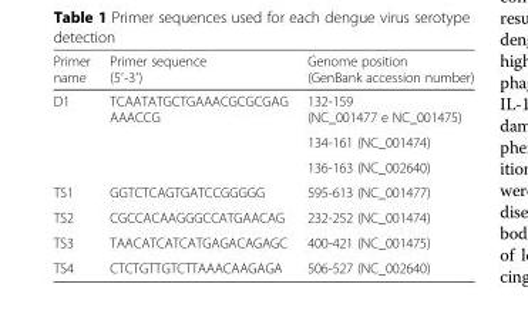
<table><thead><tr><td>Primer name</td><td>Primer sequence (5′-3′)</td><td>Genome position (GenBank accession number)</td></tr></thead><tbody><tr><td rowspan="3">D1</td><td rowspan="3">TCAATATGCTGAAACGCGCGAG AAACCG</td><td>132-159 (NC_001477 e NC_001475)</td></tr><tr><td>134-161 (NC_001474)</td></tr><tr><td>136-163 (NC_002640)</td></tr><tr><td>TS1</td><td>GGTCTCAGTGATCCGGGGG</td><td>595-613 (NC_001477)</td></tr><tr><td>TS2</td><td>CGCCACAAGGGCCATGAACAG</td><td>232-252 (NC_001474)</td></tr><tr><td>TS3</td><td>TAACATCATCATGAGACAGAGC</td><td>400-421 (NC_001475)</td></tr><tr><td>TS4</td><td>CTCTGTTGTCTTAAACAAGAGA</td><td>506-527 (NC_002640)</td></tr></tbody></table>